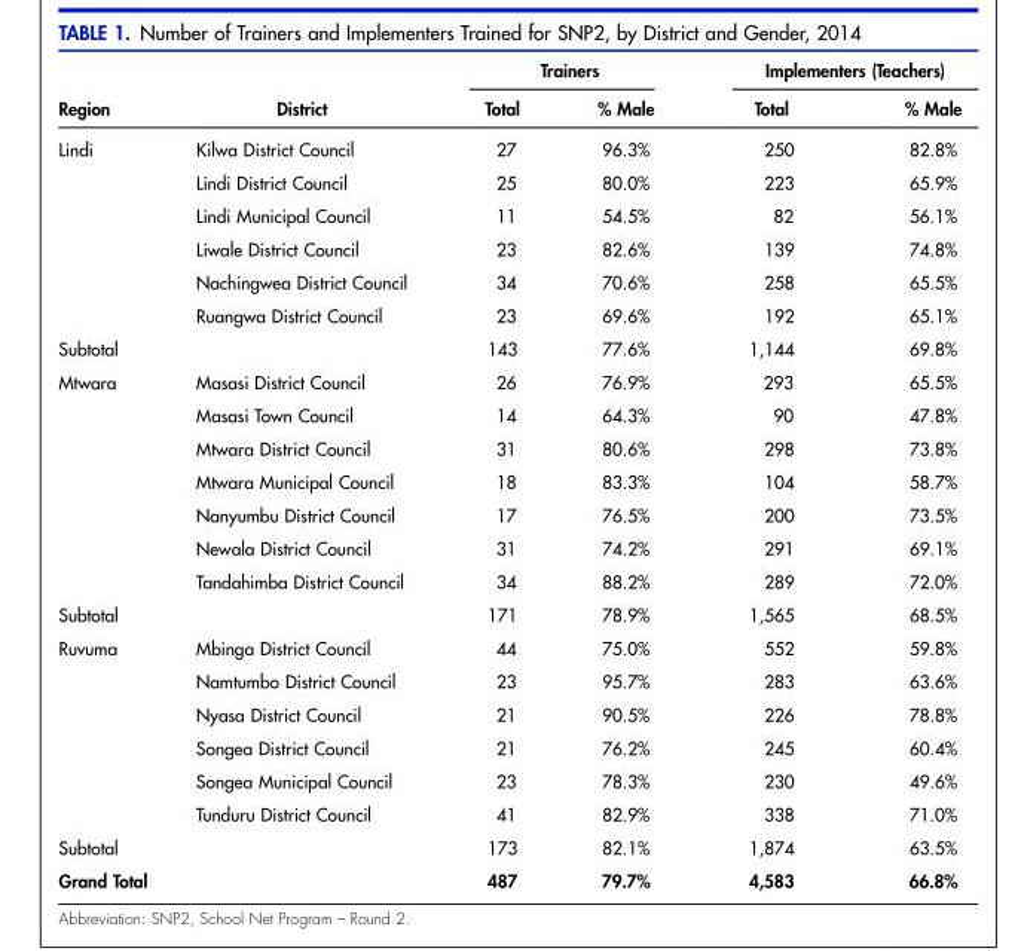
<table><thead><tr><td rowspan="2">Region</td><td rowspan="2">District</td><td colspan="2">Trainers</td><td colspan="2">Implementers (Teachers)</td></tr><tr><td>Total</td><td>% Male</td><td>Total</td><td>% Male</td></tr></thead><tbody><tr><td rowspan="6">Lindi</td><td>Kilwa District Council</td><td>27</td><td>96.3%</td><td>250</td><td>82.8%</td></tr><tr><td>Lindi District Council</td><td>25</td><td>80.0%</td><td>223</td><td>65.9%</td></tr><tr><td>Lindi Municipal Council</td><td>11</td><td>54.5%</td><td>82</td><td>56.1%</td></tr><tr><td>Liwale District Council</td><td>23</td><td>82.6%</td><td>139</td><td>74.8%</td></tr><tr><td>Nachingwea District Council</td><td>34</td><td>70.6%</td><td>258</td><td>65.5%</td></tr><tr><td>Ruangwa District Council</td><td>23</td><td>69.6%</td><td>192</td><td>65.1%</td></tr><tr><td>Subtotal</td><td></td><td>143</td><td>77.6%</td><td>1,144</td><td>69.8%</td></tr><tr><td rowspan="7">Mtwara</td><td>Masasi District Council</td><td>26</td><td>76.9%</td><td>293</td><td>65.5%</td></tr><tr><td>Masasi Town Council</td><td>14</td><td>64.3%</td><td>90</td><td>47.8%</td></tr><tr><td>Mtwara District Council</td><td>31</td><td>80.6%</td><td>298</td><td>73.8%</td></tr><tr><td>Mtwara Municipal Council</td><td>18</td><td>83.3%</td><td>104</td><td>58.7%</td></tr><tr><td>Nanyumbu District Council</td><td>17</td><td>76.5%</td><td>200</td><td>73.5%</td></tr><tr><td>Newala District Council</td><td>31</td><td>74.2%</td><td>291</td><td>69.1%</td></tr><tr><td>Tandahimba District Council</td><td>34</td><td>88.2%</td><td>289</td><td>72.0%</td></tr><tr><td>Subtotal</td><td></td><td>171</td><td>78.9%</td><td>1,565</td><td>68.5%</td></tr><tr><td rowspan="6">Ruvuma</td><td>Mbinga District Council</td><td>44</td><td>75.0%</td><td>552</td><td>59.8%</td></tr><tr><td>Namtumbo District Council</td><td>23</td><td>95.7%</td><td>283</td><td>63.6%</td></tr><tr><td>Nyasa District Council</td><td>21</td><td>90.5%</td><td>226</td><td>78.8%</td></tr><tr><td>Songea District Council</td><td>21</td><td>76.2%</td><td>245</td><td>60.4%</td></tr><tr><td>Songea Municipal Council</td><td>23</td><td>78.3%</td><td>230</td><td>49.6%</td></tr><tr><td>Tunduru District Council</td><td>41</td><td>82.9%</td><td>338</td><td>71.0%</td></tr><tr><td>Subtotal</td><td></td><td>173</td><td>82.1%</td><td>1,874</td><td>63.5%</td></tr><tr><td>Grand Total</td><td></td><td>487</td><td>79.7%</td><td>4,583</td><td>66.8%</td></tr></tbody></table>